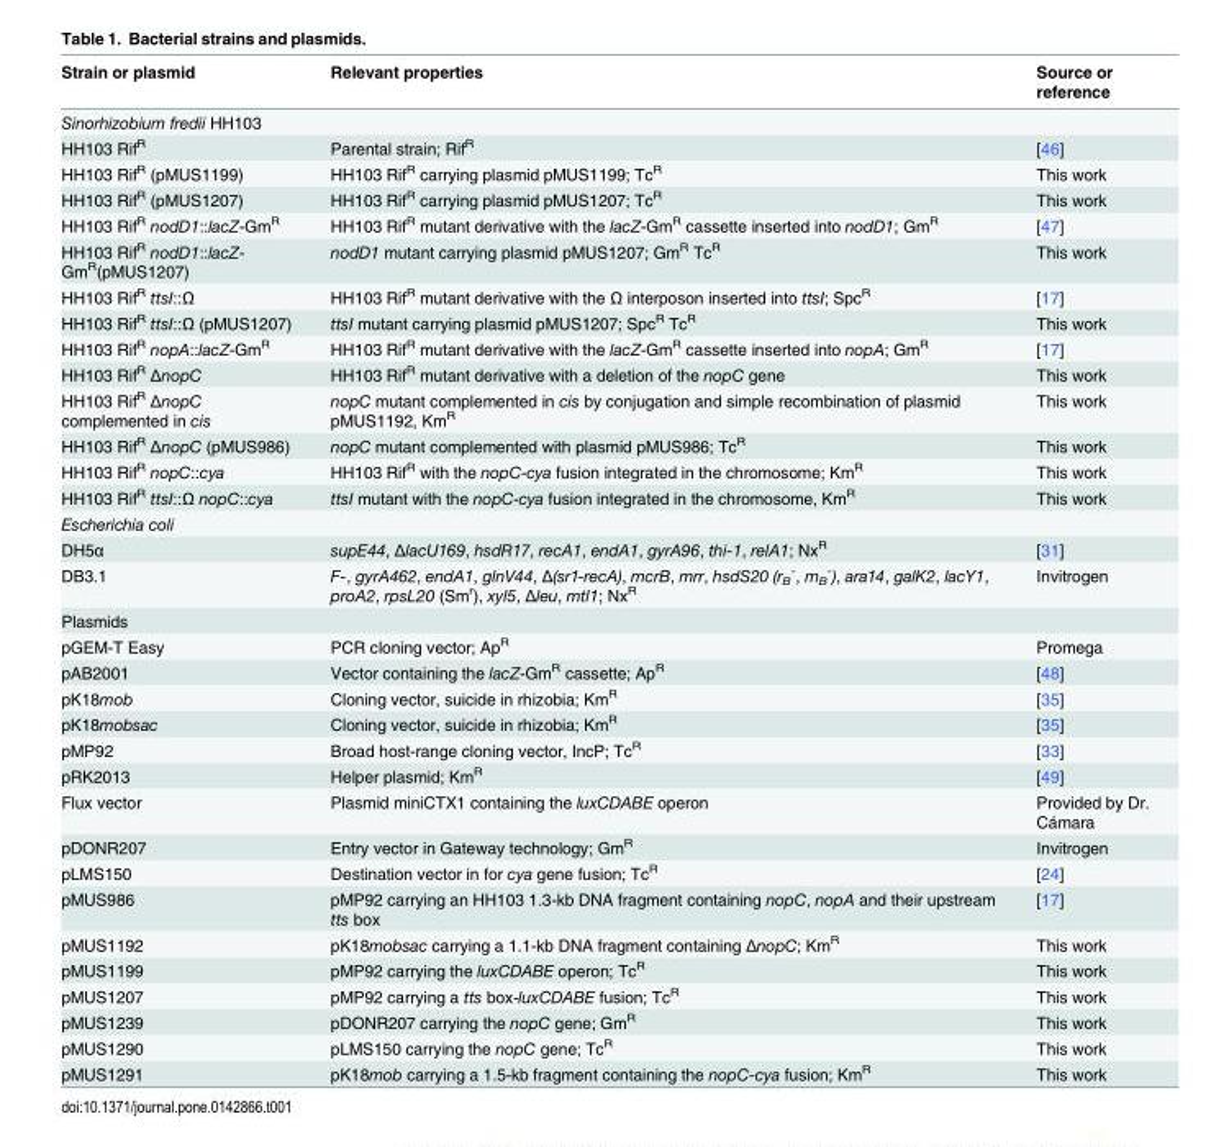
<table><thead><tr><td>Strain or plasmid</td><td>Relevant properties</td><td>Source or reference</td></tr></thead><tbody><tr><td colspan="3">Sinorhizobium fredii HH103</td></tr><tr><td>HH103 Rif<sup>R</sup></td><td>Parental strain; Rif<sup>R</sup></td><td>[46]</td></tr><tr><td>HH103 Rif<sup>R</sup> (pMUS1199)</td><td>HH103 Rif<sup>R</sup> carrying plasmid pMUS1199; Tc<sup>R</sup></td><td>This work</td></tr><tr><td>HH103 Rif<sup>R</sup> (pMUS1207)</td><td>HH103 Rif<sup>R</sup> carrying plasmid pMUS1207; Tc<sup>R</sup></td><td>This work</td></tr><tr><td>HH103 Rif<sup>R</sup> nodD1::lacZ-Gm<sup>R</sup></td><td>HH103 Rif<sup>R</sup> mutant derivative with the lacZ-Gm<sup>R</sup> cassette inserted into nodD1; Gm<sup>R</sup></td><td>[47]</td></tr><tr><td>HH103 Rif<sup>R</sup> nodD1::lacZ- Gm<sup>R</sup>(pMUS1207)</td><td>nodD1 mutant carrying plasmid pMUS1207; Gm<sup>R</sup> Tc<sup>R</sup></td><td>This work</td></tr><tr><td>HH103 Rif<sup>R</sup> ttsI::Ω</td><td>HH103 Rif<sup>R</sup> mutant derivative with the Ω interposon inserted into ttsI; Spc<sup>R</sup></td><td>[17]</td></tr><tr><td>HH103 Rif<sup>R</sup> ttsI::Ω (pMUS1207)</td><td>ttsI mutant carrying plasmid pMUS1207; Spc<sup>R</sup> Tc<sup>R</sup></td><td>This work</td></tr><tr><td>HH103 Rif<sup>R</sup> nopA::lacZ-Gm<sup>R</sup></td><td>HH103 Rif<sup>R</sup> mutant derivative with the lacZ-Gm<sup>R</sup> cassette inserted into nopA; Gm<sup>R</sup></td><td>[17]</td></tr><tr><td>HH103 Rif<sup>R</sup> ΔnopC</td><td>HH103 Rif<sup>R</sup> mutant derivative with a deletion of the nopC gene</td><td>This work</td></tr><tr><td>HH103 Rif<sup>R</sup> ΔnopC complemented in cis</td><td>nopC mutant complemented in cis by conjugation and simple recombination of plasmid pMUS1192, Km<sup>R</sup></td><td>This work</td></tr><tr><td>HH103 Rif<sup>R</sup> ΔnopC (pMUS986)</td><td>nopC mutant complemented with plasmid pMUS986; Tc<sup>R</sup></td><td>This work</td></tr><tr><td>HH103 Rif<sup>R</sup> nopC::cya</td><td>HH103 Rif<sup>R</sup> with the nopC-cya fusion integrated in the chromosome; Km<sup>R</sup></td><td>This work</td></tr><tr><td>HH103 Rif<sup>R</sup> ttsI::Ω nopC::cya</td><td>ttsI mutant with the nopC-cya fusion integrated in the chromosome, Km<sup>R</sup></td><td>This work</td></tr><tr><td colspan="3">Escherichia coli</td></tr><tr><td>DH5α</td><td>supE44, ΔlacU169, hsdR17, recA1, endA1, gyrA96, thi-1, relA1; Nx<sup>R</sup></td><td>[31]</td></tr><tr><td>DB3.1</td><td>F-, gyrA462, endA1, glnV44, Δ(sr1-recA), mcrB, mrr, hsdS20 (r<sub>B</sub> <sup>-</sup>, m<sub>B</sub> <sup>-</sup>), ara14, galK2, lacY1, proA2, rpsL20 (Sm<sup>r</sup>), xyl5, Δleu, mtl1; Nx<sup>R</sup></td><td>Invitrogen</td></tr><tr><td colspan="3">Plasmids</td></tr><tr><td>pGEM-T Easy</td><td>PCR cloning vector; Ap<sup>R</sup></td><td>Promega</td></tr><tr><td>pAB2001</td><td>Vector containing the lacZ-Gm<sup>R</sup> cassette; Ap<sup>R</sup></td><td>[48]</td></tr><tr><td>pK18mob</td><td>Cloning vector, suicide in rhizobia; Km<sup>R</sup></td><td>[35]</td></tr><tr><td>pK18mobsac</td><td>Cloning vector, suicide in rhizobia; Km<sup>R</sup></td><td>[35]</td></tr><tr><td>pMP92</td><td>Broad host-range cloning vector, IncP; Tc<sup>R</sup></td><td>[33]</td></tr><tr><td>pRK2013</td><td>Helper plasmid; Km<sup>R</sup></td><td>[49]</td></tr><tr><td>Flux vector</td><td>Plasmid miniCTX1 containing the luxCDABE operon</td><td>Provided by Dr. Cámara</td></tr><tr><td>pDONR207</td><td>Entry vector in Gateway technology; Gm<sup>R</sup></td><td>Invitrogen</td></tr><tr><td>pLMS150</td><td>Destination vector in for cya gene fusion; Tc<sup>R</sup></td><td>[24]</td></tr><tr><td>pMUS986</td><td>pMP92 carrying an HH103 1.3-kb DNA fragment containing nopC, nopA and their upstream tts box</td><td>[17]</td></tr><tr><td>pMUS1192</td><td>pK18mobsac carrying a 1.1-kb DNA fragment containing ΔnopC; Km<sup>R</sup></td><td>This work</td></tr><tr><td>pMUS1199</td><td>pMP92 carrying the luxCDABE operon; Tc<sup>R</sup></td><td>This work</td></tr><tr><td>pMUS1207</td><td>pMP92 carrying a tts box-luxCDABE fusion; Tc<sup>R</sup></td><td>This work</td></tr><tr><td>pMUS1239</td><td>pDONR207 carrying the nopC gene; Gm<sup>R</sup></td><td>This work</td></tr><tr><td>pMUS1290</td><td>pLMS150 carrying the nopC gene; Tc<sup>R</sup></td><td>This work</td></tr><tr><td>pMUS1291</td><td>pK18mob carrying a 1.5-kb fragment containing the nopC-cya fusion; Km<sup>R</sup></td><td>This work</td></tr></tbody></table>